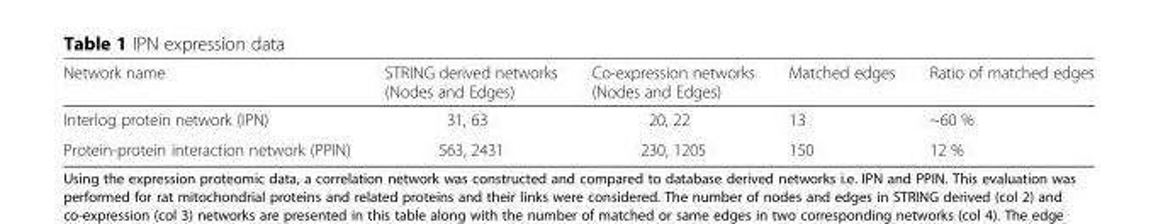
<table><thead><tr><td>Network name</td><td>STRING derived networks (Nodes and Edges)</td><td>Co-expression networks (Nodes and Edges)</td><td>Matched edges</td><td>Ratio of matched edges</td></tr></thead><tbody><tr><td>Interlog protein network (IPN)</td><td>31, 63</td><td>20, 22</td><td>13</td><td>~60 %</td></tr><tr><td>Protein-protein interaction network (PPIN)</td><td>563, 2431</td><td>230, 1205</td><td>150</td><td>12 %</td></tr></tbody></table>